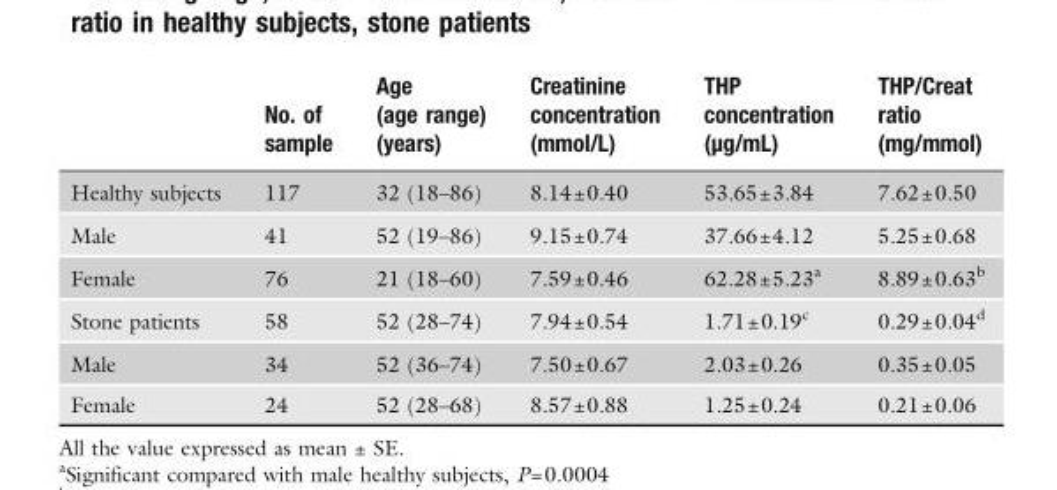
<table><thead><tr><td></td><td>No. of sample</td><td>Age (age range) (years)</td><td>Creatinine concentration (mmol/L)</td><td>THP concentration (µg/mL)</td><td>THP/Creat ratio (mg/mmol)</td></tr></thead><tbody><tr><td>Healthy subjects</td><td>117</td><td>32 (18–86)</td><td>8.14±0.40</td><td>53.65±3.84</td><td>7.62±0.50</td></tr><tr><td>Male</td><td>41</td><td>52 (19–86)</td><td>9.15±0.74</td><td>37.66±4.12</td><td>5.25±0.68</td></tr><tr><td>Female</td><td>76</td><td>21 (18–60)</td><td>7.59±0.46</td><td>62.28±5.23<sup>a</sup></td><td>8.89±0.63<sup>b</sup></td></tr><tr><td>Stone patients</td><td>58</td><td>52 (28–74)</td><td>7.94±0.54</td><td>1.71±0.19<sup>c</sup></td><td>0.29±0.04<sup>d</sup></td></tr><tr><td>Male</td><td>34</td><td>52 (36–74)</td><td>7.50±0.67</td><td>2.03±0.26</td><td>0.35±0.05</td></tr><tr><td>Female</td><td>24</td><td>52 (28–68)</td><td>8.57±0.88</td><td>1.25±0.24</td><td>0.21±0.06</td></tr></tbody></table>